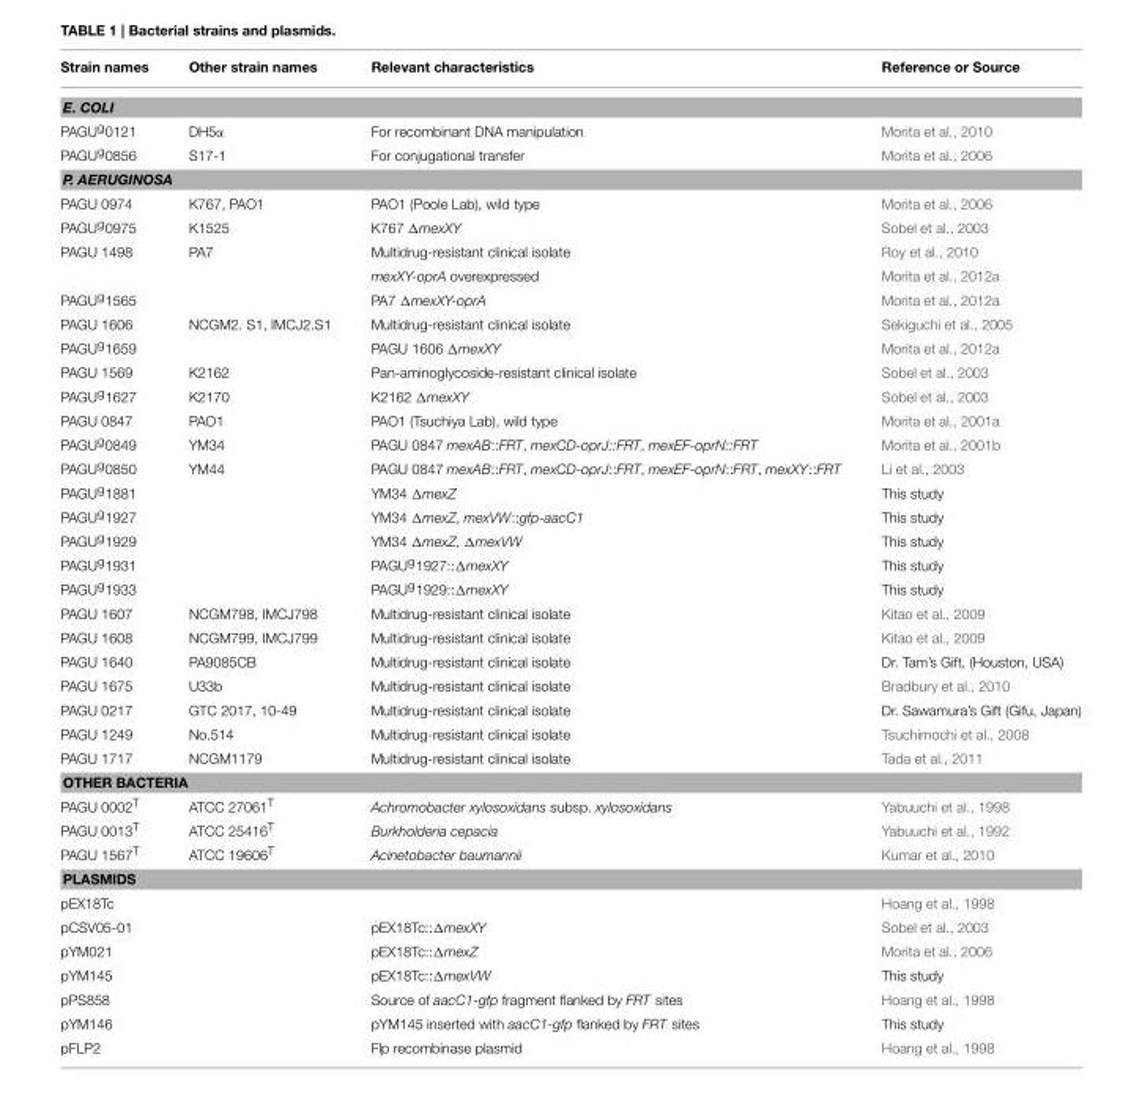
<table><thead><tr><td>Strain names</td><td>Other strain names</td><td>Relevant characteristics</td><td>Reference or Source</td></tr></thead><tbody><tr><td colspan="4">E. COLI</td></tr><tr><td>PAGU<sup>g</sup>0121</td><td>DH5α</td><td>For recombinant DNA manipulation</td><td>Morita et al., 2010</td></tr><tr><td>PAGU<sup>g</sup>0856</td><td>S17-1</td><td>For conjugational transfer</td><td>Morita et al., 2006</td></tr><tr><td colspan="4">P. AERUGINOSA</td></tr><tr><td>PAGU 0974</td><td>K767, PAO1</td><td>PAO1 (Poole Lab), wild type</td><td>Morita et al., 2006</td></tr><tr><td>PAGU<sup>g</sup>0975</td><td>K1525</td><td>K767 ΔmexXY</td><td>Sobel et al., 2003</td></tr><tr><td rowspan="2">PAGU 1498</td><td>PA7</td><td>Multidrug-resistant clinical isolate</td><td>Roy et al., 2010</td></tr><tr><td></td><td>mexXY-oprA overexpressed</td><td>Morita et al., 2012a</td></tr><tr><td>PAGU<sup>g</sup>1565</td><td></td><td>PA7 ΔmexXY-oprA</td><td>Morita et al., 2012a</td></tr><tr><td>PAGU 1606</td><td>NCGM2. S1, IMCJ2.S1</td><td>Multidrug-resistant clinical isolate</td><td>Sekiguchi et al., 2005</td></tr><tr><td>PAGU<sup>g</sup>1659</td><td></td><td>PAGU 1606 ΔmexXY</td><td>Morita et al., 2012a</td></tr><tr><td>PAGU 1569</td><td>K2162</td><td>Pan-aminoglycoside-resistant clinical isolate</td><td>Sobel et al., 2003</td></tr><tr><td>PAGU<sup>g</sup>1627</td><td>K2170</td><td>K2162 ΔmexXY</td><td>Sobel et al., 2003</td></tr><tr><td>PAGU 0847</td><td>PAO1</td><td>PAO1 (Tsuchiya Lab), wild type</td><td>Morita et al., 2001a</td></tr><tr><td>PAGU<sup>g</sup>0849</td><td>YM34</td><td>PAGU 0847 mexAB::FRT, mexCD-oprJ::FRT, mexEF-oprN::FRT</td><td>Morita et al., 2001b</td></tr><tr><td>PAGU<sup>g</sup>0850</td><td>YM44</td><td>PAGU 0847 mexAB::FRT, mexCD-oprJ::FRT, mexEF-oprN::FRT, mexXY::FRT</td><td>Li et al., 2003</td></tr><tr><td>PAGU<sup>g</sup>1881</td><td></td><td>YM34 ΔmexZ</td><td>This study</td></tr><tr><td>PAGU<sup>g</sup>1927</td><td></td><td>YM34 ΔmexZ, mexVW::gfp-aacC1</td><td>This study</td></tr><tr><td>PAGU<sup>g</sup>1929</td><td></td><td>YM34 ΔmexZ, ΔmexVW</td><td>This study</td></tr><tr><td>PAGU<sup>g</sup>1931</td><td></td><td>PAGU<sup>g</sup>1927::ΔmexXY</td><td>This study</td></tr><tr><td>PAGU<sup>g</sup>1933</td><td></td><td>PAGU<sup>g</sup>1929::ΔmexXY</td><td>This study</td></tr><tr><td>PAGU 1607</td><td>NCGM798, IMCJ798</td><td>Multidrug-resistant clinical isolate</td><td>Kitao et al., 2009</td></tr><tr><td>PAGU 1608</td><td>NCGM799, IMCJ799</td><td>Multidrug-resistant clinical isolate</td><td>Kitao et al., 2009</td></tr><tr><td>PAGU 1640</td><td>PA9085CB</td><td>Multidrug-resistant clinical isolate</td><td>Dr. Tam’s Gift, (Houston, USA)</td></tr><tr><td>PAGU 1675</td><td>U33b</td><td>Multidrug-resistant clinical isolate</td><td>Bradbury et al., 2010</td></tr><tr><td>PAGU 0217</td><td>GTC 2017, 10-49</td><td>Multidrug-resistant clinical isolate</td><td>Dr. Sawamura’s Gift (Gifu, Japan)</td></tr><tr><td>PAGU 1249</td><td>No.514</td><td>Multidrug-resistant clinical isolate</td><td>Tsuchimochi et al., 2008</td></tr><tr><td>PAGU 1717</td><td>NCGM1179</td><td>Multidrug-resistant clinical isolate</td><td>Tada et al., 2011</td></tr><tr><td colspan="4">OTHER BACTERIA</td></tr><tr><td>PAGU 0002<sup>T</sup></td><td>ATCC 27061<sup>T</sup></td><td>Achromobacter xylosoxidans subsp. xylosoxidans</td><td>Yabuuchi et al., 1998</td></tr><tr><td>PAGU 0013<sup>T</sup></td><td>ATCC 25416<sup>T</sup></td><td>Burkholderia cepacia</td><td>Yabuuchi et al., 1992</td></tr><tr><td>PAGU 1567<sup>T</sup></td><td>ATCC 19606<sup>T</sup></td><td>Acinetobacter baumannii</td><td>Kumar et al., 2010</td></tr><tr><td colspan="4">PLASMIDS</td></tr><tr><td>pEX18Tc</td><td></td><td></td><td>Hoang et al., 1998</td></tr><tr><td>pCSV05-01</td><td></td><td>pEX18Tc::ΔmexXY</td><td>Sobel et al., 2003</td></tr><tr><td>pYM021</td><td></td><td>pEX18Tc::ΔmexZ</td><td>Morita et al., 2006</td></tr><tr><td>pYM145</td><td></td><td>pEX18Tc::ΔmexVW</td><td>This study</td></tr><tr><td>pPS858</td><td></td><td>Source of aacC1-gfp fragment flanked by FRT sites</td><td>Hoang et al., 1998</td></tr><tr><td>pYM146</td><td></td><td>pYM145 inserted with aacC1-gfp flanked by FRT sites</td><td>This study</td></tr><tr><td>pFLP2</td><td></td><td>Flp recombinase plasmid</td><td>Hoang et al., 1998</td></tr></tbody></table>